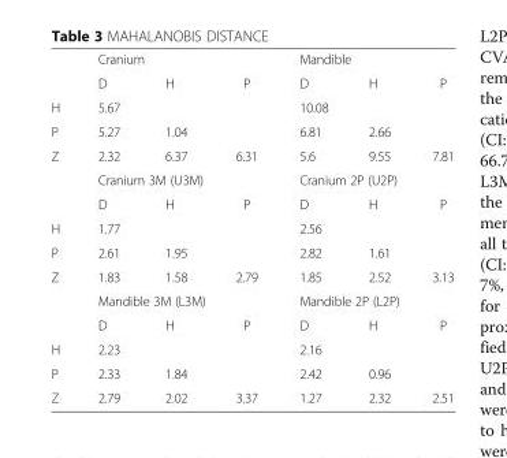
<table><thead><tr><td rowspan="2"></td><td colspan="3">Cranium</td><td colspan="3">Mandible</td></tr><tr><td>D</td><td>H</td><td>P</td><td>D</td><td>H</td><td>P</td></tr></thead><tbody><tr><td>H</td><td>5.67</td><td></td><td></td><td>10.08</td><td></td><td></td></tr><tr><td>P</td><td>5.27</td><td>1.04</td><td></td><td>6.81</td><td>2.66</td><td></td></tr><tr><td rowspan="3">Z</td><td>2.32</td><td>6.37</td><td>6.31</td><td>5.6</td><td>9.55</td><td>7.81</td></tr><tr><td colspan="3">Cranium 3M (U3M)</td><td colspan="3">Cranium 2P (U2P)</td></tr><tr><td>D</td><td>H</td><td>P</td><td>D</td><td>H</td><td>P</td></tr><tr><td>H</td><td>1.77</td><td></td><td></td><td>2.56</td><td></td><td></td></tr><tr><td>P</td><td>2.61</td><td>1.95</td><td></td><td>2.82</td><td>1.61</td><td></td></tr><tr><td rowspan="3">Z</td><td>1.83</td><td>1.58</td><td>2.79</td><td>1.85</td><td>2.52</td><td>3.13</td></tr><tr><td colspan="3">Mandible 3M (L3M)</td><td colspan="3">Mandible 2P (L2P)</td></tr><tr><td>D</td><td>H</td><td>P</td><td>D</td><td>H</td><td>P</td></tr><tr><td>H</td><td>2.23</td><td></td><td></td><td>2.16</td><td></td><td></td></tr><tr><td>P</td><td>2.33</td><td>1.84</td><td></td><td>2.42</td><td>0.96</td><td></td></tr><tr><td>Z</td><td>2.79</td><td>2.02</td><td>3.37</td><td>1.27</td><td>2.32</td><td>2.51</td></tr></tbody></table>